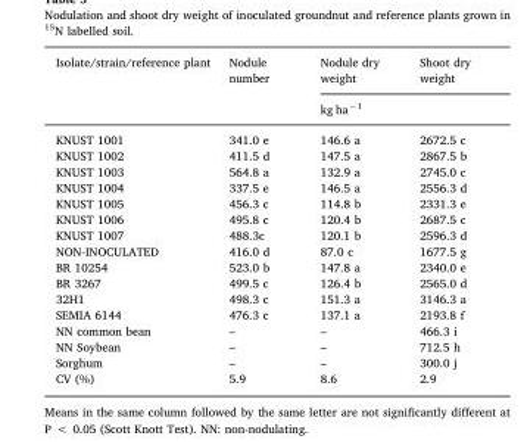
<table><thead><tr><td rowspan="2">Isolate/strain/reference plant</td><td rowspan="2">Nodule number</td><td>Nodule dry weight</td><td>Shoot dry weight</td></tr><tr><td colspan="2">kg ha<sup>−1</sup></td></tr></thead><tbody><tr><td>KNUST 1001</td><td>341.0 e</td><td>146.6 a</td><td>2672.5 c</td></tr><tr><td>KNUST 1002</td><td>411.5 d</td><td>147.5 a</td><td>2867.5 b</td></tr><tr><td>KNUST 1003</td><td>564.8 a</td><td>132.9 a</td><td>2745.0 c</td></tr><tr><td>KNUST 1004</td><td>337.5 e</td><td>146.5 a</td><td>2556.3 d</td></tr><tr><td>KNUST 1005</td><td>456.3 c</td><td>114.8 b</td><td>2331.3 e</td></tr><tr><td>KNUST 1006</td><td>495.8 c</td><td>120.4 b</td><td>2687.5 c</td></tr><tr><td>KNUST 1007</td><td>488.3c</td><td>120.1 b</td><td>2596.3 d</td></tr><tr><td>NON-INOCULATED</td><td>416.0 d</td><td>87.0 c</td><td>1677.5 g</td></tr><tr><td>BR 10254</td><td>523.0 b</td><td>147.8 a</td><td>2340.0 e</td></tr><tr><td>BR 3267</td><td>499.5 c</td><td>126.4 b</td><td>2565.0 d</td></tr><tr><td>32H1</td><td>498.3 c</td><td>151.3 a</td><td>3146.3 a</td></tr><tr><td>SEMIA 6144</td><td>476.3 c</td><td>137.1 a</td><td>2193.8 f</td></tr><tr><td>NN common bean</td><td>–</td><td>–</td><td>466.3 i</td></tr><tr><td>NN Soybean</td><td>–</td><td>–</td><td>712.5 h</td></tr><tr><td>Sorghum</td><td>–</td><td>–</td><td>300.0 j</td></tr><tr><td>CV (%)</td><td>5.9</td><td>8.6</td><td>2.9</td></tr></tbody></table>